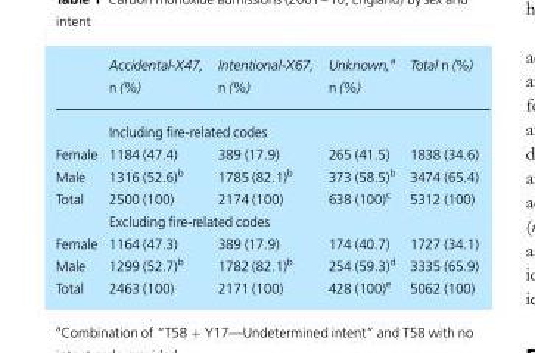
<table><thead><tr><td></td><td>Accidental-X47, n (%)</td><td>Intentional-X67, n (%)</td><td>Unknown,<sup>a</sup> n (%)</td><td>Total n (%)</td></tr></thead><tbody><tr><td></td><td colspan="4">Including fire-related codes</td></tr><tr><td>Female</td><td>1184 (47.4)</td><td>389 (17.9)</td><td>265 (41.5)</td><td>1838 (34.6)</td></tr><tr><td>Male</td><td>1316 (52.6)<sup>b</sup></td><td>1785 (82.1)<sup>b</sup></td><td>373 (58.5)<sup>b</sup></td><td>3474 (65.4)</td></tr><tr><td rowspan="2">Total</td><td>2500 (100)</td><td>2174 (100)</td><td>638 (100)<sup>c</sup></td><td>5312 (100)</td></tr><tr><td colspan="4">Excluding fire-related codes</td></tr><tr><td>Female</td><td>1164 (47.3)</td><td>389 (17.9)</td><td>174 (40.7)</td><td>1727 (34.1)</td></tr><tr><td>Male</td><td>1299 (52.7)<sup>b</sup></td><td>1782 (82.1)<sup>b</sup></td><td>254 (59.3)<sup>d</sup></td><td>3335 (65.9)</td></tr><tr><td>Total</td><td>2463 (100)</td><td>2171 (100)</td><td>428 (100)<sup>e</sup></td><td>5062 (100)</td></tr></tbody></table>